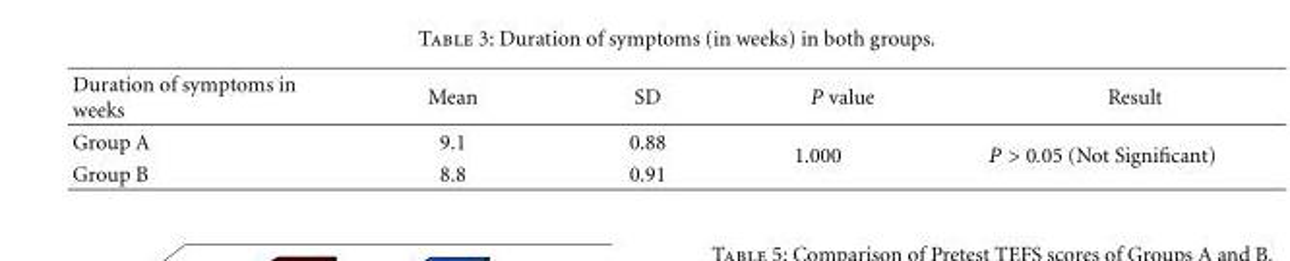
<table><thead><tr><td>Duration of symptoms in weeks</td><td>Mean</td><td>SD</td><td>P value</td><td>Result</td></tr></thead><tbody><tr><td>Group A</td><td>9.1</td><td>0.88</td><td rowspan="2">1.000</td><td rowspan="2">P &gt; 0.05 (Not Significant)</td></tr><tr><td>Group B</td><td>8.8</td><td>0.91</td></tr></tbody></table>